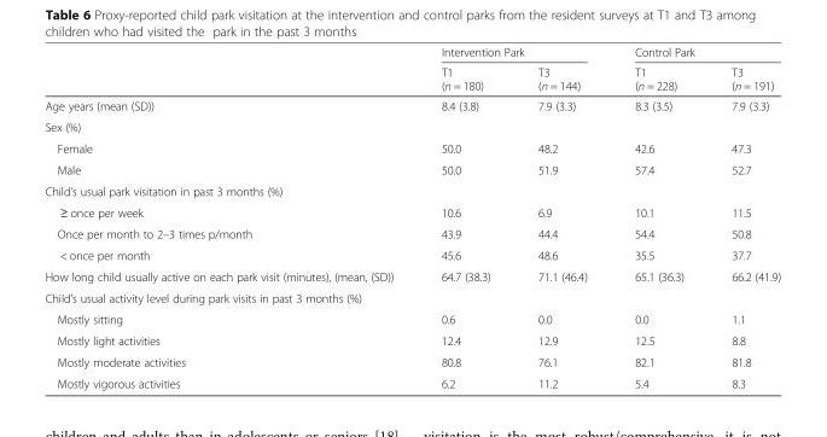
<table><thead><tr><td rowspan="2"></td><td colspan="2">Intervention Park</td><td colspan="2">Control Park</td></tr><tr><td>T1 (n = 180)</td><td>T3 (n = 144)</td><td>T1 (n = 228)</td><td>T3 (n = 191)</td></tr></thead><tbody><tr><td>Age years (mean (SD))</td><td>8.4 (3.8)</td><td>7.9 (3.3)</td><td>8.3 (3.5)</td><td>7.9 (3.3)</td></tr><tr><td colspan="5">Sex (%)</td></tr><tr><td>Female</td><td>50.0</td><td>48.2</td><td>42.6</td><td>47.3</td></tr><tr><td>Male</td><td>50.0</td><td>51.9</td><td>57.4</td><td>52.7</td></tr><tr><td colspan="5">Child’s usual park visitation in past 3 months (%)</td></tr><tr><td>≥ once per week</td><td>10.6</td><td>6.9</td><td>10.1</td><td>11.5</td></tr><tr><td>Once per month to 2–3 times p/month</td><td>43.9</td><td>44.4</td><td>54.4</td><td>50.8</td></tr><tr><td>&lt; once per month</td><td>45.6</td><td>48.6</td><td>35.5</td><td>37.7</td></tr><tr><td>How long child usually active on each park visit (minutes), (mean, (SD))</td><td>64.7 (38.3)</td><td>71.1 (46.4)</td><td>65.1 (36.3)</td><td>66.2 (41.9)</td></tr><tr><td colspan="5">Child’s usual activity level during park visits in past 3 months (%)</td></tr><tr><td>Mostly sitting</td><td>0.6</td><td>0.0</td><td>0.0</td><td>1.1</td></tr><tr><td>Mostly light activities</td><td>12.4</td><td>12.9</td><td>12.5</td><td>8.8</td></tr><tr><td>Mostly moderate activities</td><td>80.8</td><td>76.1</td><td>82.1</td><td>81.8</td></tr><tr><td>Mostly vigorous activities</td><td>6.2</td><td>11.2</td><td>5.4</td><td>8.3</td></tr></tbody></table>